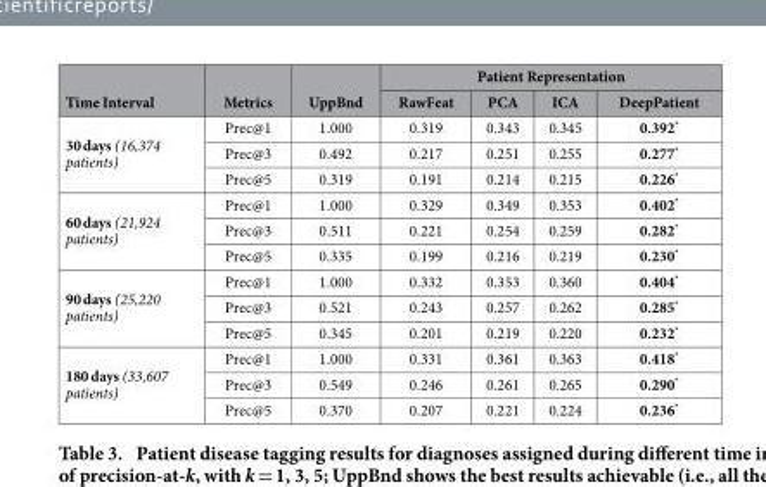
<table><thead><tr><td rowspan="2">Time Interval</td><td rowspan="2">Metrics</td><td rowspan="2">UppBnd</td><td colspan="4">Patient Representation</td></tr><tr><td>RawFeat</td><td>PCA</td><td>ICA</td><td>DeepPatient</td></tr></thead><tbody><tr><td rowspan="3">30 days (16,374 patients)</td><td>Prec@1</td><td>1.000</td><td>0.319</td><td>0.343</td><td>0.345</td><td>0.392*</td></tr><tr><td>Prec@3</td><td>0.492</td><td>0.217</td><td>0.251</td><td>0.255</td><td>0.277*</td></tr><tr><td>Prec@5</td><td>0.319</td><td>0.191</td><td>0.214</td><td>0.215</td><td>0.226*</td></tr><tr><td rowspan="3">60 days (21,924 patients)</td><td>Prec@1</td><td>1.000</td><td>0.329</td><td>0.349</td><td>0.353</td><td>0.402*</td></tr><tr><td>Prec@3</td><td>0.511</td><td>0.221</td><td>0.254</td><td>0.259</td><td>0.282*</td></tr><tr><td>Prec@5</td><td>0.335</td><td>0.199</td><td>0.216</td><td>0.219</td><td>0.230*</td></tr><tr><td rowspan="3">90 days (25,220 patients)</td><td>Prec@1</td><td>1.000</td><td>0.332</td><td>0.353</td><td>0.360</td><td>0.404*</td></tr><tr><td>Prec@3</td><td>0.521</td><td>0.243</td><td>0.257</td><td>0.262</td><td>0.285*</td></tr><tr><td>Prec@5</td><td>0.345</td><td>0.201</td><td>0.219</td><td>0.220</td><td>0.232*</td></tr><tr><td rowspan="3">180 days (33,607 patients)</td><td>Prec@1</td><td>1.000</td><td>0.331</td><td>0.361</td><td>0.363</td><td>0.418*</td></tr><tr><td>Prec@3</td><td>0.549</td><td>0.246</td><td>0.261</td><td>0.265</td><td>0.290*</td></tr><tr><td>Prec@5</td><td>0.370</td><td>0.207</td><td>0.221</td><td>0.224</td><td>0.236*</td></tr></tbody></table>